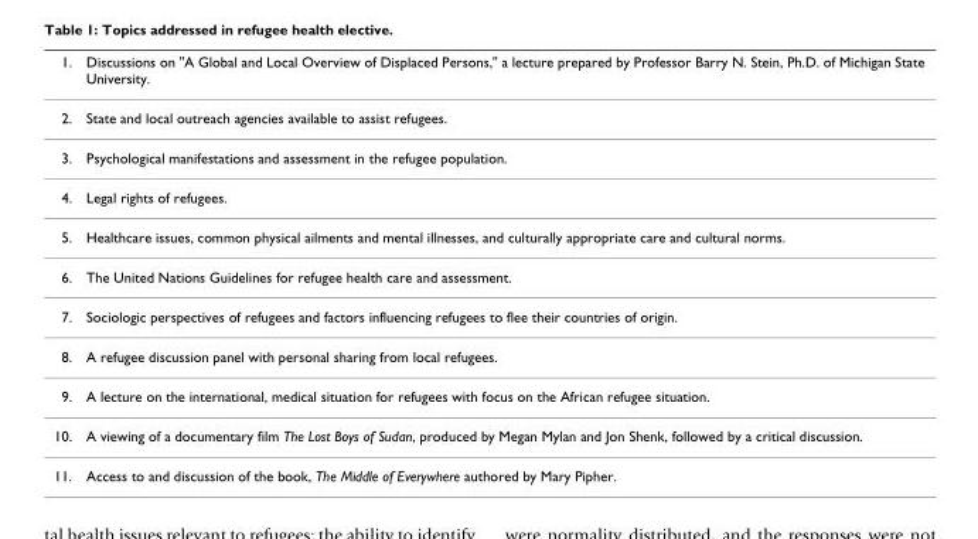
<table><thead><tr><td>1.</td><td>Discussions on &quot;A Global and Local Overview of Displaced Persons,&quot; a lecture prepared by Professor Barry N. Stein, Ph.D. of Michigan State University.</td></tr></thead><tbody><tr><td>2.</td><td>State and local outreach agencies available to assist refugees.</td></tr><tr><td>3.</td><td>Psychological manifestations and assessment in the refugee population.</td></tr><tr><td>4.</td><td>Legal rights of refugees.</td></tr><tr><td>5.</td><td>Healthcare issues, common physical ailments and mental illnesses, and culturally appropriate care and cultural norms.</td></tr><tr><td>6.</td><td>The United Nations Guidelines for refugee health care and assessment.</td></tr><tr><td>7.</td><td>Sociologic perspectives of refugees and factors influencing refugees to flee their countries of origin.</td></tr><tr><td>8.</td><td>A refugee discussion panel with personal sharing from local refugees.</td></tr><tr><td>9.</td><td>A lecture on the international, medical situation for refugees with focus on the African refugee situation.</td></tr><tr><td>10.</td><td>A viewing of a documentary film The Lost Boys of Sudan, produced by Megan Mylan and Jon Shenk, followed by a critical discussion.</td></tr><tr><td>11.</td><td>Access to and discussion of the book, The Middle of Everywhere authored by Mary Pipher.</td></tr></tbody></table>